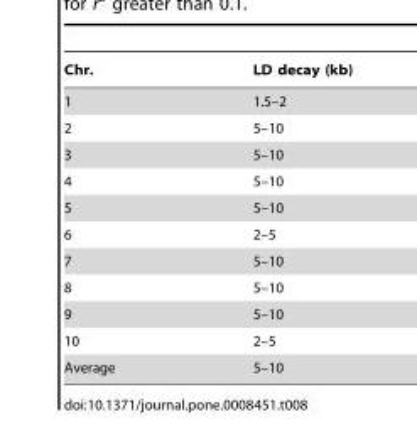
<table><thead><tr><td>Chr.</td><td>LD decay (kb)</td></tr></thead><tbody><tr><td>1</td><td>1.5–2</td></tr><tr><td>2</td><td>5–10</td></tr><tr><td>3</td><td>5–10</td></tr><tr><td>4</td><td>5–10</td></tr><tr><td>5</td><td>5–10</td></tr><tr><td>6</td><td>2–5</td></tr><tr><td>7</td><td>5–10</td></tr><tr><td>8</td><td>5–10</td></tr><tr><td>9</td><td>5–10</td></tr><tr><td>10</td><td>2–5</td></tr><tr><td>Average</td><td>5–10</td></tr></tbody></table>